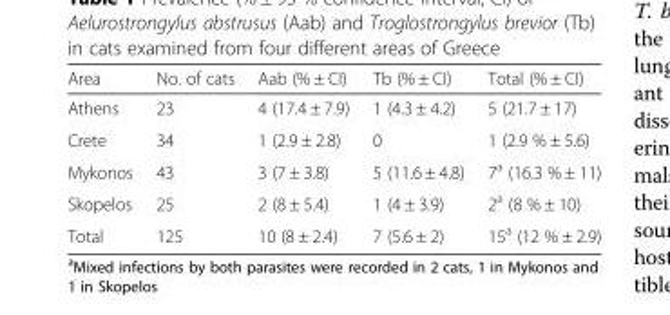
<table><thead><tr><td>Area</td><td>No. of cats</td><td>Aab (% ± CI)</td><td>Tb (% ± CI)</td><td>Total (% ± CI)</td></tr></thead><tbody><tr><td>Athens</td><td>23</td><td>4 (17.4 ± 7.9)</td><td>1 (4.3 ± 4.2)</td><td>5 (21.7 ± 17)</td></tr><tr><td>Crete</td><td>34</td><td>1 (2.9 ± 2.8)</td><td>0</td><td>1 (2.9 % ± 5.6)</td></tr><tr><td>Mykonos</td><td>43</td><td>3 (7 ± 3.8)</td><td>5 (11.6 ± 4.8)</td><td>7<sup>a</sup> (16.3 % ± 11)</td></tr><tr><td>Skopelos</td><td>25</td><td>2 (8 ± 5.4)</td><td>1 (4 ± 3.9)</td><td>2<sup>a</sup> (8 % ± 10)</td></tr><tr><td>Total</td><td>125</td><td>10 (8 ± 2.4)</td><td>7 (5.6 ± 2)</td><td>15<sup>a</sup> (12 % ± 2.9)</td></tr></tbody></table>